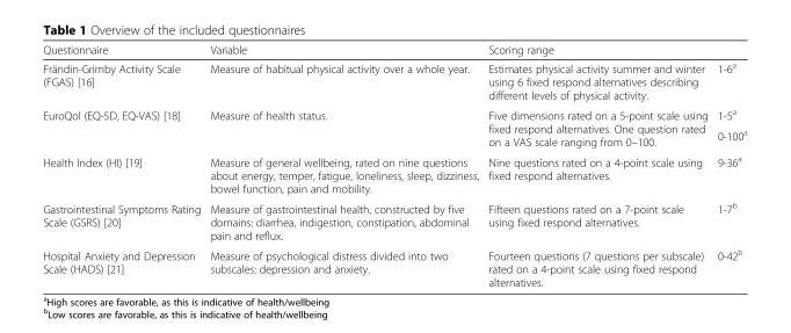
<table><thead><tr><td>Questionnaire</td><td>Variable</td><td>Scoring range</td><td></td></tr></thead><tbody><tr><td>Frändin-Grimby Activity Scale (FGAS) [16]</td><td>Measure of habitual physical activity over a whole year.</td><td>Estimates physical activity summer and winter using 6 fixed respond alternatives describing different levels of physical activity.</td><td>1-6<sup>a</sup></td></tr><tr><td rowspan="2">EuroQol (EQ-5D, EQ-VAS) [18]</td><td rowspan="2">Measure of health status.</td><td rowspan="2">Five dimensions rated on a 5-point scale using fixed respond alternatives. One question rated on a VAS scale ranging from 0–100.</td><td>1-5<sup>a</sup></td></tr><tr><td>0-100<sup>a</sup></td></tr><tr><td>Health Index (HI) [19]</td><td>Measure of general wellbeing, rated on nine questions about energy, temper, fatigue, loneliness, sleep, dizziness, bowel function, pain and mobility.</td><td>Nine questions rated on a 4-point scale using fixed respond alternatives.</td><td>9-36<sup>a</sup></td></tr><tr><td>Gastrointestinal Symptoms Rating Scale (GSRS) [20]</td><td>Measure of gastrointestinal health, constructed by five domains: diarrhea, indigestion, constipation, abdominal pain and reflux.</td><td>Fifteen questions rated on a 7-point scale using fixed respond alternatives.</td><td>1-7<sup>b</sup></td></tr><tr><td>Hospital Anxiety and Depression Scale (HADS) [21]</td><td>Measure of psychological distress divided into two subscales: depression and anxiety.</td><td>Fourteen questions (7 questions per subscale) rated on a 4-point scale using fixed respond alternatives.</td><td>0-42<sup>b</sup></td></tr></tbody></table>